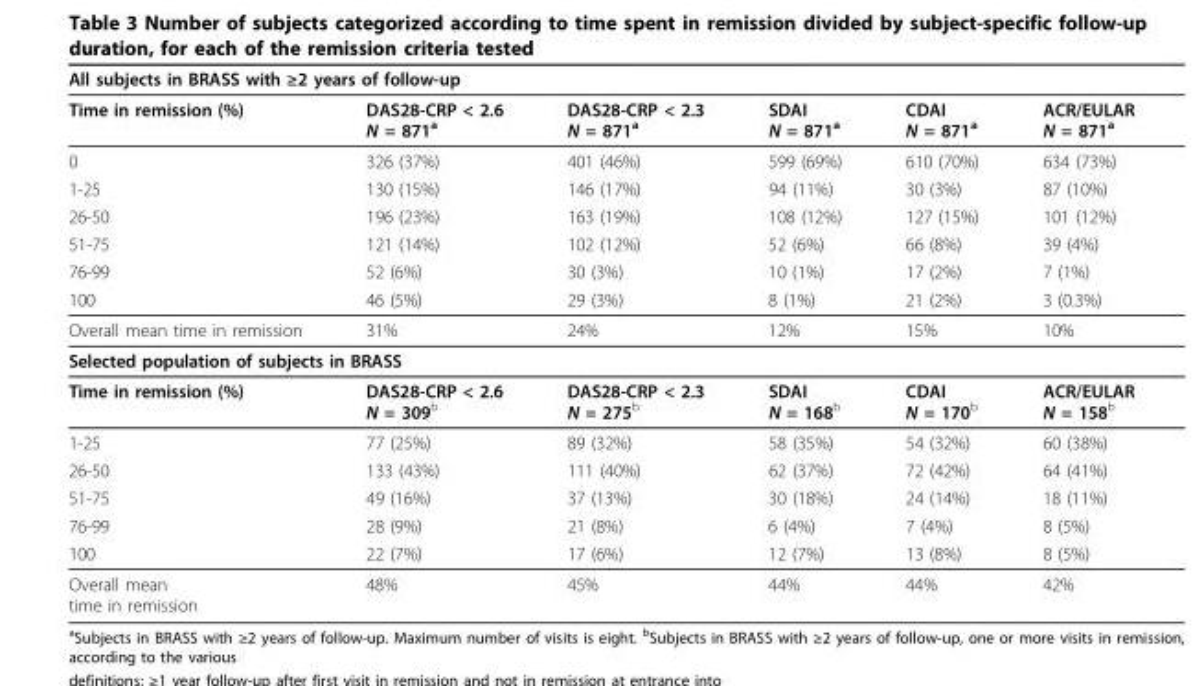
<table><thead><tr><td colspan="6">All subjects in BRASS with ≥2 years of follow-up</td></tr><tr><td>Time in remission (%)</td><td>DAS28-CRP &lt; 2.6 N = 871<sup>a</sup></td><td>DAS28-CRP &lt; 2.3 N = 871<sup>a</sup></td><td>SDAI N = 871<sup>a</sup></td><td>CDAI N = 871<sup>a</sup></td><td>ACR/EULAR N = 871<sup>a</sup></td></tr></thead><tbody><tr><td>0</td><td>326 (37%)</td><td>401 (46%)</td><td>599 (69%)</td><td>610 (70%)</td><td>634 (73%)</td></tr><tr><td>1-25</td><td>130 (15%)</td><td>146 (17%)</td><td>94 (11%)</td><td>30 (3%)</td><td>87 (10%)</td></tr><tr><td>26-50</td><td>196 (23%)</td><td>163 (19%)</td><td>108 (12%)</td><td>127 (15%)</td><td>101 (12%)</td></tr><tr><td>51-75</td><td>121 (14%)</td><td>102 (12%)</td><td>52 (6%)</td><td>66 (8%)</td><td>39 (4%)</td></tr><tr><td>76-99</td><td>52 (6%)</td><td>30 (3%)</td><td>10 (1%)</td><td>17 (2%)</td><td>7 (1%)</td></tr><tr><td>100</td><td>46 (5%)</td><td>29 (3%)</td><td>8 (1%)</td><td>21 (2%)</td><td>3 (0.3%)</td></tr><tr><td>Overall mean time in remission</td><td>31%</td><td>24%</td><td>12%</td><td>15%</td><td>10%</td></tr><tr><td colspan="6">Selected population of subjects in BRASS</td></tr><tr><td>Time in remission (%)</td><td>DAS28-CRP &lt; 2.6 N = 309<sup>b</sup></td><td>DAS28-CRP &lt; 2.3 N = 275<sup>b</sup></td><td>SDAI N = 168<sup>b</sup></td><td>CDAI N = 170<sup>b</sup></td><td>ACR/EULAR N = 158<sup>b</sup></td></tr><tr><td>1-25</td><td>77 (25%)</td><td>89 (32%)</td><td>58 (35%)</td><td>54 (32%)</td><td>60 (38%)</td></tr><tr><td>26-50</td><td>133 (43%)</td><td>111 (40%)</td><td>62 (37%)</td><td>72 (42%)</td><td>64 (41%)</td></tr><tr><td>51-75</td><td>49 (16%)</td><td>37 (13%)</td><td>30 (18%)</td><td>24 (14%)</td><td>18 (11%)</td></tr><tr><td>76-99</td><td>28 (9%)</td><td>21 (8%)</td><td>6 (4%)</td><td>7 (4%)</td><td>8 (5%)</td></tr><tr><td>100</td><td>22 (7%)</td><td>17 (6%)</td><td>12 (7%)</td><td>13 (8%)</td><td>8 (5%)</td></tr><tr><td>Overall mean time in remission</td><td>48%</td><td>45%</td><td>44%</td><td>44%</td><td>42%</td></tr></tbody></table>